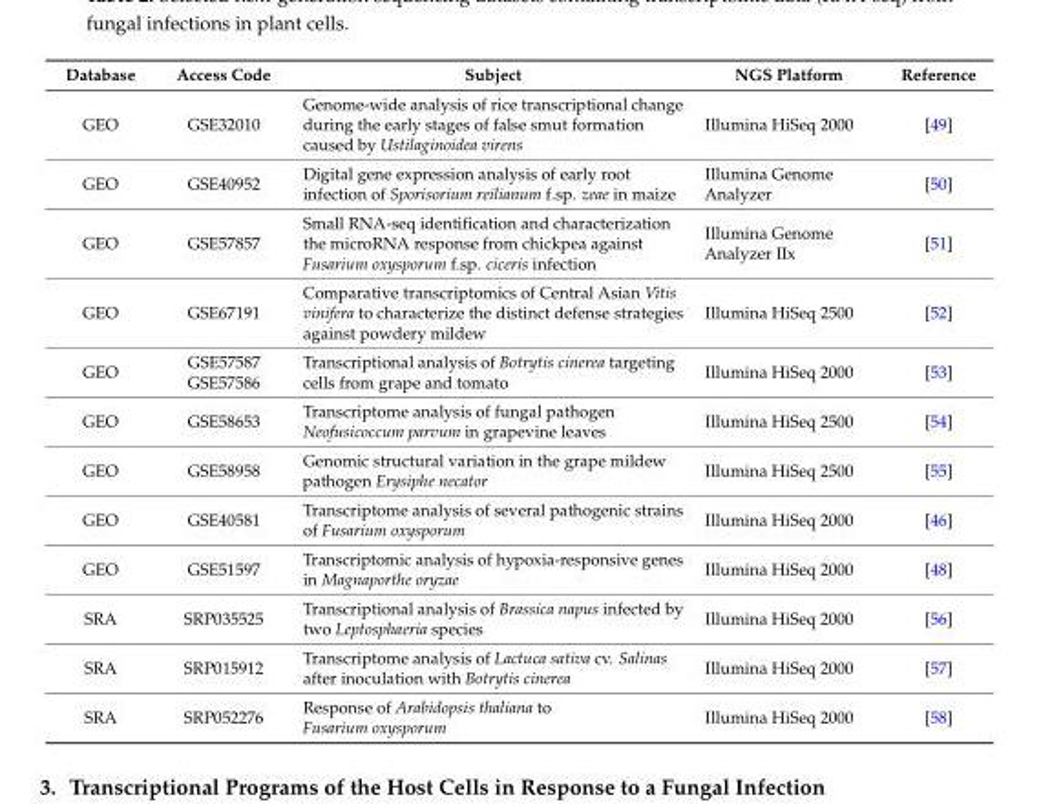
<table><thead><tr><td>Database</td><td>Access Code</td><td>Subject</td><td>NGS Platform</td><td>Reference</td></tr></thead><tbody><tr><td>GEO</td><td>GSE32010</td><td>Genome-wide analysis of rice transcriptional change during the early stages of false smut formation caused by Ustilaginoidea virens</td><td>Illumina HiSeq 2000</td><td>[49]</td></tr><tr><td>GEO</td><td>GSE40952</td><td>Digital gene expression analysis of early root infection of Sporisorium reilianum f.sp. zeae in maize</td><td>Illumina Genome Analyzer</td><td>[50]</td></tr><tr><td>GEO</td><td>GSE57857</td><td>Small RNA-seq identification and characterization the microRNA response from chickpea against Fusarium oxysporum f.sp. ciceris infection</td><td>Illumina Genome Analyzer IIx</td><td>[51]</td></tr><tr><td>GEO</td><td>GSE67191</td><td>Comparative transcriptomics of Central Asian Vitis vinifera to characterize the distinct defense strategies against powdery mildew</td><td>Illumina HiSeq 2500</td><td>[52]</td></tr><tr><td>GEO</td><td>GSE57587 GSE57586</td><td>Transcriptional analysis of Botrytis cinerea targeting cells from grape and tomato</td><td>Illumina HiSeq 2000</td><td>[53]</td></tr><tr><td>GEO</td><td>GSE58653</td><td>Transcriptome analysis of fungal pathogen Neofusicoccum parvum in grapevine leaves</td><td>Illumina HiSeq 2500</td><td>[54]</td></tr><tr><td>GEO</td><td>GSE58958</td><td>Genomic structural variation in the grape mildew pathogen Erysiphe necator</td><td>Illumina HiSeq 2500</td><td>[55]</td></tr><tr><td>GEO</td><td>GSE40581</td><td>Transcriptome analysis of several pathogenic strains of Fusarium oxysporum</td><td>Illumina HiSeq 2000</td><td>[46]</td></tr><tr><td>GEO</td><td>GSE51597</td><td>Transcriptomic analysis of hypoxia-responsive genes in Magnaporthe oryzae</td><td>Illumina HiSeq 2000</td><td>[48]</td></tr><tr><td>SRA</td><td>SRP035525</td><td>Transcriptional analysis of Brassica napus infected by two Leptosphaeria species</td><td>Illumina HiSeq 2000</td><td>[56]</td></tr><tr><td>SRA</td><td>SRP015912</td><td>Transcriptome analysis of Lactuca sativa cv. Salinas after inoculation with Botrytis cinerea</td><td>Illumina HiSeq 2000</td><td>[57]</td></tr><tr><td>SRA</td><td>SRP052276</td><td>Response of Arabidopsis thaliana to Fusarium oxysporum</td><td>Illumina HiSeq 2000</td><td>[58]</td></tr></tbody></table>